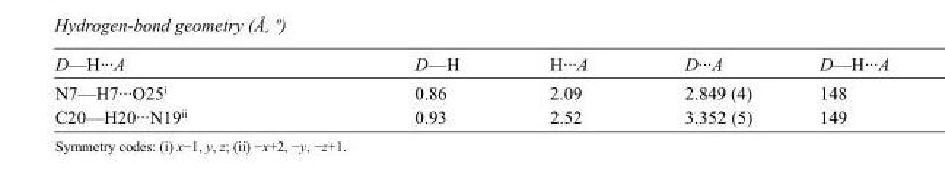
<table><tbody><tr><td>D—H···A</td><td>D—H</td><td>H···A</td><td>D···A</td><td>D—H···A</td></tr><tr><td>N7—H7···O25<sup>i</sup></td><td>0.86</td><td>2.09</td><td>2.849 (4)</td><td>148</td></tr><tr><td>C20—H20···N19<sup>ii</sup></td><td>0.93</td><td>2.52</td><td>3.352 (5)</td><td>149</td></tr></tbody></table>